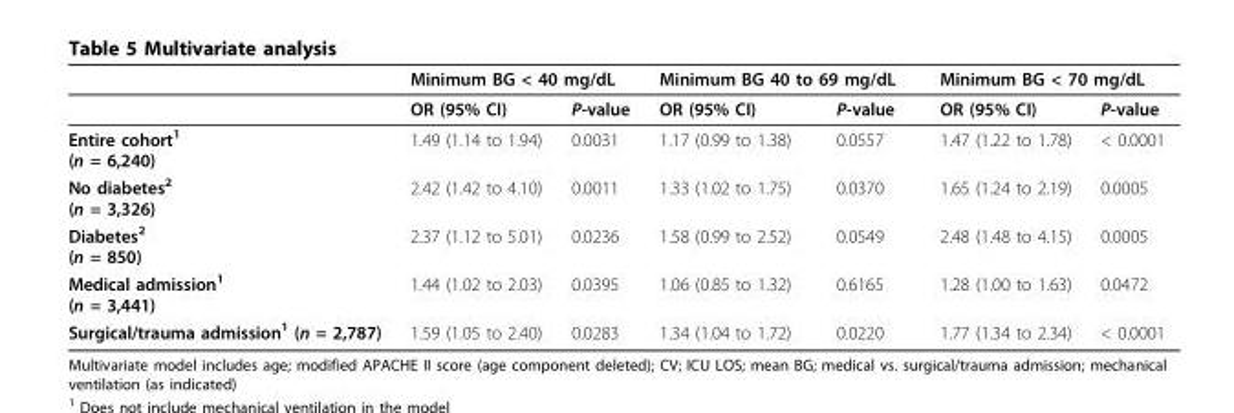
<table><thead><tr><td rowspan="2"></td><td colspan="2">Minimum BG &lt; 40 mg/dL</td><td colspan="2">Minimum BG 40 to 69 mg/dL</td><td colspan="2">Minimum BG &lt; 70 mg/dL</td></tr><tr><td>OR (95% CI)</td><td>P-value</td><td>OR (95% CI)</td><td>P-value</td><td>OR (95% CI)</td><td>P-value</td></tr></thead><tbody><tr><td>Entire cohort<sup>1</sup> (n = 6,240)</td><td>1.49 (1.14 to 1.94)</td><td>0.0031</td><td>1.17 (0.99 to 1.38)</td><td>0.0557</td><td>1.47 (1.22 to 1.78)</td><td>&lt; 0.0001</td></tr><tr><td>No diabetes<sup>2</sup> (n = 3,326)</td><td>2.42 (1.42 to 4.10)</td><td>0.0011</td><td>1.33 (1.02 to 1.75)</td><td>0.0370</td><td>1.65 (1.24 to 2.19)</td><td>0.0005</td></tr><tr><td>Diabetes<sup>2</sup> (n = 850)</td><td>2.37 (1.12 to 5.01)</td><td>0.0236</td><td>1.58 (0.99 to 2.52)</td><td>0.0549</td><td>2.48 (1.48 to 4.15)</td><td>0.0005</td></tr><tr><td>Medical admission<sup>1</sup> (n = 3,441)</td><td>1.44 (1.02 to 2.03)</td><td>0.0395</td><td>1.06 (0.85 to 1.32)</td><td>0.6165</td><td>1.28 (1.00 to 1.63)</td><td>0.0472</td></tr><tr><td>Surgical/trauma admission<sup>1</sup> (n = 2,787)</td><td>1.59 (1.05 to 2.40)</td><td>0.0283</td><td>1.34 (1.04 to 1.72)</td><td>0.0220</td><td>1.77 (1.34 to 2.34)</td><td>&lt; 0.0001</td></tr></tbody></table>